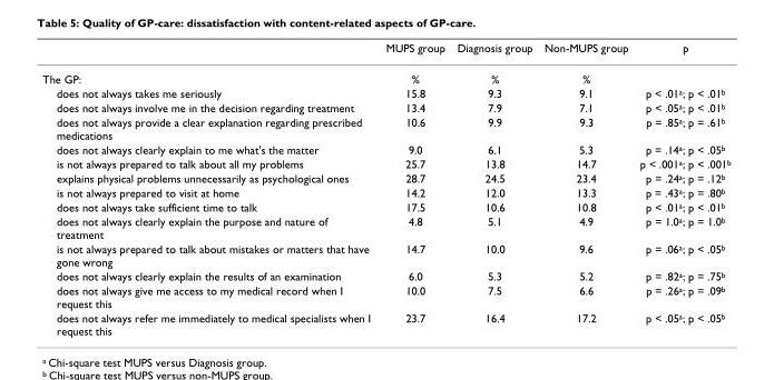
<table><thead><tr><td></td><td>MUPS group</td><td>Diagnosis group</td><td>Non-MUPS group</td><td>p</td></tr></thead><tbody><tr><td>The GP:</td><td>%</td><td>%</td><td>%</td><td></td></tr><tr><td>does not always takes me seriously</td><td>15.8</td><td>9.3</td><td>9.1</td><td>p &lt; .01<sup>a</sup>; p &lt; .01<sup>b</sup></td></tr><tr><td>does not always involve me in the decision regarding treatment</td><td>13.4</td><td>7.9</td><td>7.1</td><td>p &lt; .05<sup>a</sup>; p &lt; .01<sup>b</sup></td></tr><tr><td>does not always provide a clear explanation regarding prescribed medications</td><td>10.6</td><td>9.9</td><td>9.3</td><td>p = .85<sup>a</sup>; p = .61<sup>b</sup></td></tr><tr><td>does not always clearly explain to me what&#x27;s the matter</td><td>9.0</td><td>6.1</td><td>5.3</td><td>p = .14<sup>a</sup>; p &lt; .05<sup>b</sup></td></tr><tr><td>is not always prepared to talk about all my problems</td><td>25.7</td><td>13.8</td><td>14.7</td><td>p &lt; .001<sup>a</sup>; p &lt; .001<sup>b</sup></td></tr><tr><td>explains physical problems unnecessarily as psychological ones</td><td>28.7</td><td>24.5</td><td>23.4</td><td>p = .24<sup>a</sup>; p = .12<sup>b</sup></td></tr><tr><td>is not always prepared to visit at home</td><td>14.2</td><td>12.0</td><td>13.3</td><td>p = .43<sup>a</sup>; p = .80<sup>b</sup></td></tr><tr><td>does not always take sufficient time to talk</td><td>17.5</td><td>10.6</td><td>10.8</td><td>p &lt; .01<sup>a</sup>; p &lt; .01<sup>b</sup></td></tr><tr><td>does not always clearly explain the purpose and nature of treatment</td><td>4.8</td><td>5.1</td><td>4.9</td><td>p = 1.0<sup>a</sup>; p = 1.0<sup>b</sup></td></tr><tr><td>is not always prepared to talk about mistakes or matters that have gone wrong</td><td>14.7</td><td>10.0</td><td>9.6</td><td>p = .06<sup>a</sup>; p &lt; .05<sup>b</sup></td></tr><tr><td>does not always clearly explain the results of an examination</td><td>6.0</td><td>5.3</td><td>5.2</td><td>p = .82<sup>a</sup>; p = .75<sup>b</sup></td></tr><tr><td>does not always give me access to my medical record when I request this</td><td>10.0</td><td>7.5</td><td>6.6</td><td>p = .26<sup>a</sup>; p = .09<sup>b</sup></td></tr><tr><td>does not always refer me immediately to medical specialists when I request this</td><td>23.7</td><td>16.4</td><td>17.2</td><td>p &lt; .05<sup>a</sup>; p &lt; .05<sup>b</sup></td></tr></tbody></table>